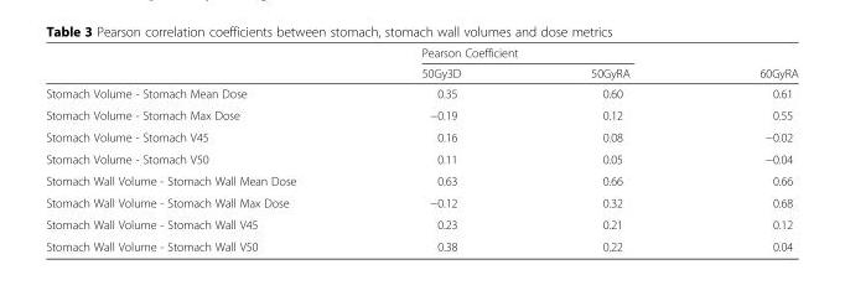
<table><thead><tr><td rowspan="2"></td><td colspan="2">Pearson Coefficient</td><td rowspan="2">60GyRA</td></tr><tr><td>50Gy3D</td><td>50GyRA</td></tr></thead><tbody><tr><td>Stomach Volume - Stomach Mean Dose</td><td>0.35</td><td>0.60</td><td>0.61</td></tr><tr><td>Stomach Volume - Stomach Max Dose</td><td>−0.19</td><td>0.12</td><td>0.55</td></tr><tr><td>Stomach Volume - Stomach V45</td><td>0.16</td><td>0.08</td><td>−0.02</td></tr><tr><td>Stomach Volume - Stomach V50</td><td>0.11</td><td>0.05</td><td>−0.04</td></tr><tr><td>Stomach Wall Volume - Stomach Wall Mean Dose</td><td>0.63</td><td>0.66</td><td>0.66</td></tr><tr><td>Stomach Wall Volume - Stomach Wall Max Dose</td><td>−0.12</td><td>0.32</td><td>0.68</td></tr><tr><td>Stomach Wall Volume - Stomach Wall V45</td><td>0.23</td><td>0.21</td><td>0.12</td></tr><tr><td>Stomach Wall Volume - Stomach Wall V50</td><td>0.38</td><td>0.22</td><td>0.04</td></tr></tbody></table>